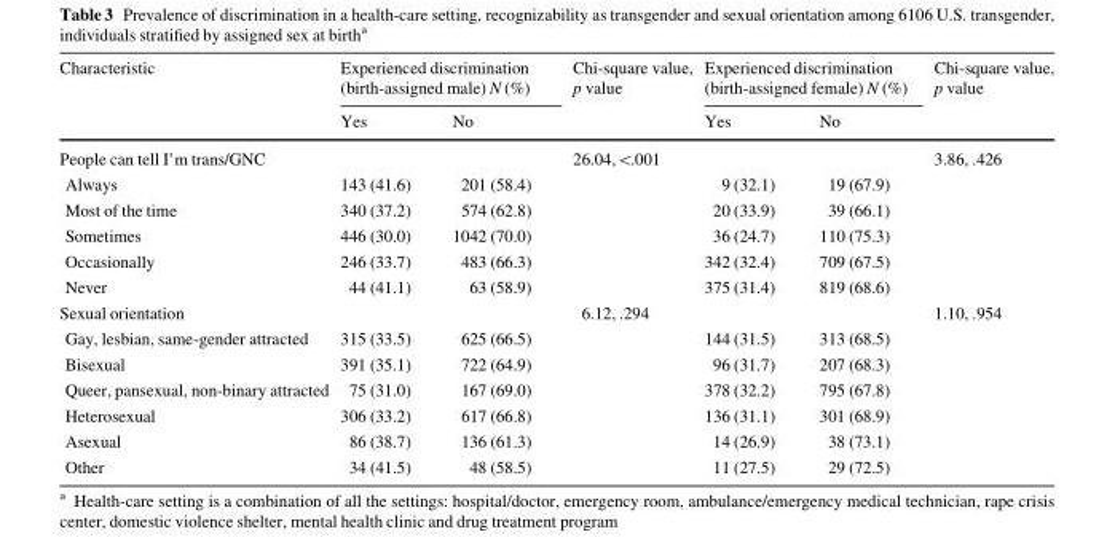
<table><thead><tr><td rowspan="2">Characteristic</td><td colspan="2">Experienced discrimination (birth-assigned male) N (%)</td><td rowspan="2">Chi-square value, p value</td><td colspan="2">Experienced discrimination (birth-assigned female) N (%)</td><td rowspan="2">Chi-square value, p value</td></tr><tr><td>Yes</td><td>No</td><td>Yes</td><td>No</td></tr></thead><tbody><tr><td>People can tell I’m trans/GNC</td><td></td><td></td><td>26.04,&lt;.001</td><td></td><td></td><td>3.86, .426</td></tr><tr><td>Always</td><td>143 (41.6)</td><td>201 (58.4)</td><td></td><td>9 (32.1)</td><td>19 (67.9)</td><td></td></tr><tr><td>Most of the time</td><td>340 (37.2)</td><td>574 (62.8)</td><td></td><td>20 (33.9)</td><td>39 (66.1)</td><td></td></tr><tr><td>Sometimes</td><td>446 (30.0)</td><td>1042 (70.0)</td><td></td><td>36 (24.7)</td><td>110 (75.3)</td><td></td></tr><tr><td>Occasionally</td><td>246 (33.7)</td><td>483 (66.3)</td><td></td><td>342 (32.4)</td><td>709 (67.5)</td><td></td></tr><tr><td>Never</td><td>44 (41.1)</td><td>63 (58.9)</td><td></td><td>375 (31.4)</td><td>819 (68.6)</td><td></td></tr><tr><td>Sexual orientation</td><td></td><td></td><td>6.12, .294</td><td></td><td></td><td>1.10, .954</td></tr><tr><td>Gay, lesbian, same-gender attracted</td><td>315 (33.5)</td><td>625 (66.5)</td><td></td><td>144 (31.5)</td><td>313 (68.5)</td><td></td></tr><tr><td>Bisexual</td><td>391 (35.1)</td><td>722 (64.9)</td><td></td><td>96 (31.7)</td><td>207 (68.3)</td><td></td></tr><tr><td>Queer, pansexual, non-binary attracted</td><td>75 (31.0)</td><td>167 (69.0)</td><td></td><td>378 (32.2)</td><td>795 (67.8)</td><td></td></tr><tr><td>Heterosexual</td><td>306 (33.2)</td><td>617 (66.8)</td><td></td><td>136 (31.1)</td><td>301 (68.9)</td><td></td></tr><tr><td>Asexual</td><td>86 (38.7)</td><td>136 (61.3)</td><td></td><td>14 (26.9)</td><td>38 (73.1)</td><td></td></tr><tr><td>Other</td><td>34 (41.5)</td><td>48 (58.5)</td><td></td><td>11 (27.5)</td><td>29 (72.5)</td><td></td></tr></tbody></table>